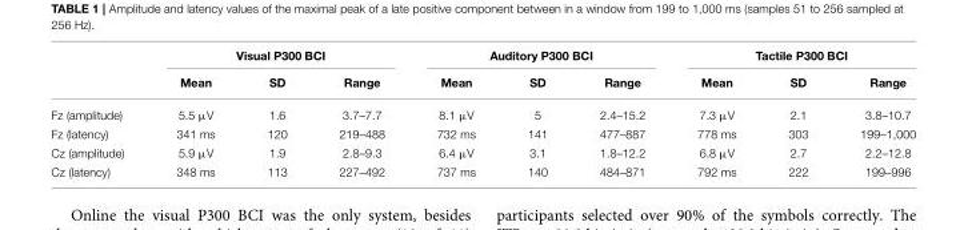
<table><thead><tr><td rowspan="2"></td><td colspan="3">Visual P300 BCI</td><td colspan="3">Auditory P300 BCI</td><td colspan="3">Tactile P300 BCI</td></tr><tr><td>Mean</td><td>SD</td><td>Range</td><td>Mean</td><td>SD</td><td>Range</td><td>Mean</td><td>SD</td><td>Range</td></tr></thead><tbody><tr><td>Fz (amplitude)</td><td>5.5 µV</td><td>1.6</td><td>3.7–7.7</td><td>8.1 µV</td><td>5</td><td>2.4–15.2</td><td>7.3 µV</td><td>2.1</td><td>3.8–10.7</td></tr><tr><td>Fz (latency)</td><td>341 ms</td><td>120</td><td>219–488</td><td>732 ms</td><td>141</td><td>477–887</td><td>778 ms</td><td>303</td><td>199–1,000</td></tr><tr><td>Cz (amplitude)</td><td>5.9 µV</td><td>1.9</td><td>2.8–9.3</td><td>6.4 µV</td><td>3.1</td><td>1.8–12.2</td><td>6.8 µV</td><td>2.7</td><td>2.2–12.8</td></tr><tr><td>Cz (latency)</td><td>348 ms</td><td>113</td><td>227–492</td><td>737 ms</td><td>140</td><td>484–871</td><td>792 ms</td><td>222</td><td>199–996</td></tr></tbody></table>